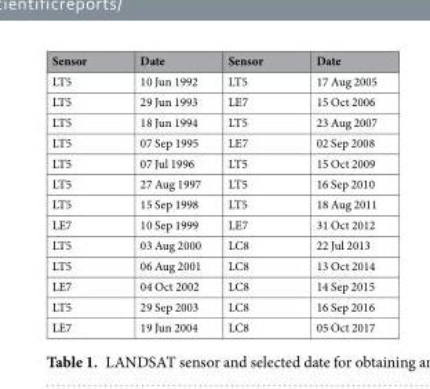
<table><thead><tr><td>Sensor</td><td>Date</td><td>Sensor</td><td>Date</td></tr></thead><tbody><tr><td>LT5</td><td>10 Jun 1992</td><td>LT5</td><td>17 Aug 2005</td></tr><tr><td>LT5</td><td>29 Jun 1993</td><td>LE7</td><td>15 Oct 2006</td></tr><tr><td>LT5</td><td>18 Jun 1994</td><td>LT5</td><td>23 Aug 2007</td></tr><tr><td>LT5</td><td>07 Sep 1995</td><td>LE7</td><td>02 Sep 2008</td></tr><tr><td>LT5</td><td>07 Jul 1996</td><td>LT5</td><td>15 Oct 2009</td></tr><tr><td>LT5</td><td>27 Aug 1997</td><td>LT5</td><td>16 Sep 2010</td></tr><tr><td>LT5</td><td>15 Sep 1998</td><td>LT5</td><td>18 Aug 2011</td></tr><tr><td>LE7</td><td>10 Sep 1999</td><td>LE7</td><td>31 Oct 2012</td></tr><tr><td>LT5</td><td>03 Aug 2000</td><td>LC8</td><td>22 Jul 2013</td></tr><tr><td>LT5</td><td>06 Aug 2001</td><td>LC8</td><td>13 Oct 2014</td></tr><tr><td>LE7</td><td>04 Oct 2002</td><td>LC8</td><td>14 Sep 2015</td></tr><tr><td>LT5</td><td>29 Sep 2003</td><td>LC8</td><td>16 Sep 2016</td></tr><tr><td>LE7</td><td>19 Jun 2004</td><td>LC8</td><td>05 Oct 2017</td></tr></tbody></table>